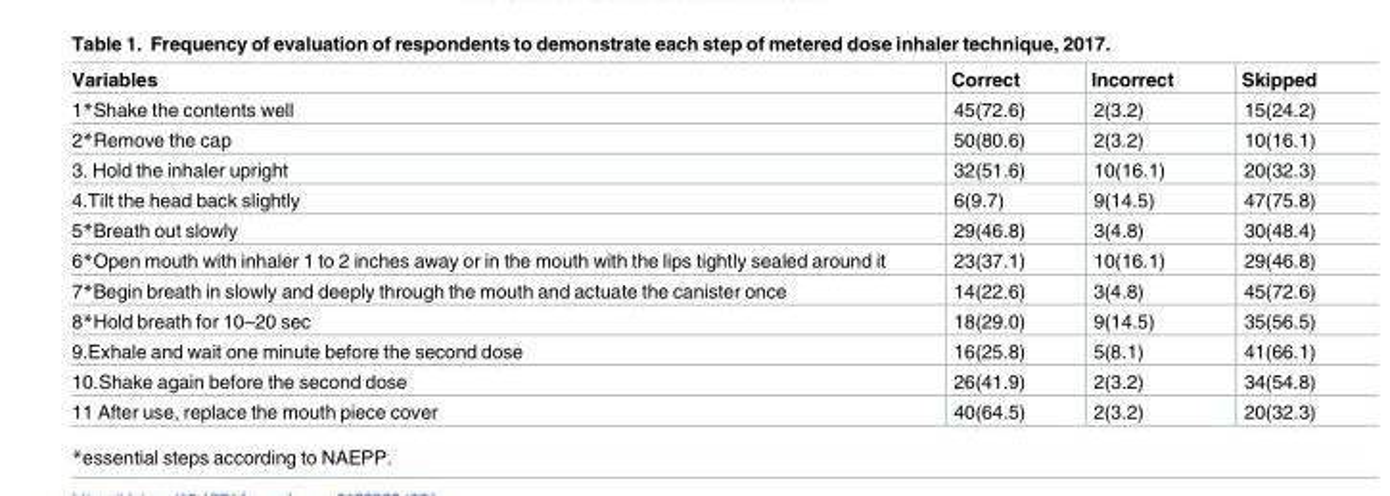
<table><thead><tr><td>Variables</td><td>Correct</td><td>Incorrect</td><td>Skipped</td></tr></thead><tbody><tr><td>1*Shake the contents well</td><td>45(72.6)</td><td>2(3.2)</td><td>15(24.2)</td></tr><tr><td>2*Remove the cap</td><td>50(80.6)</td><td>2(3.2)</td><td>10(16.1)</td></tr><tr><td>3. Hold the inhaler upright</td><td>32(51.6)</td><td>10(16.1)</td><td>20(32.3)</td></tr><tr><td>4.Tilt the head back slightly</td><td>6(9.7)</td><td>9(14.5)</td><td>47(75.8)</td></tr><tr><td>5*Breath out slowly</td><td>29(46.8)</td><td>3(4.8)</td><td>30(48.4)</td></tr><tr><td>6*Open mouth with inhaler 1 to 2 inches away or in the mouth with the lips tightly sealed around it</td><td>23(37.1)</td><td>10(16.1)</td><td>29(46.8)</td></tr><tr><td>7*Begin breath in slowly and deeply through the mouth and actuate the canister once</td><td>14(22.6)</td><td>3(4.8)</td><td>45(72.6)</td></tr><tr><td>8*Hold breath for 10–20 sec</td><td>18(29.0)</td><td>9(14.5)</td><td>35(56.5)</td></tr><tr><td>9.Exhale and wait one minute before the second dose</td><td>16(25.8)</td><td>5(8.1)</td><td>41(66.1)</td></tr><tr><td>10.Shake again before the second dose</td><td>26(41.9)</td><td>2(3.2)</td><td>34(54.8)</td></tr><tr><td>11 After use, replace the mouth piece cover</td><td>40(64.5)</td><td>2(3.2)</td><td>20(32.3)</td></tr></tbody></table>